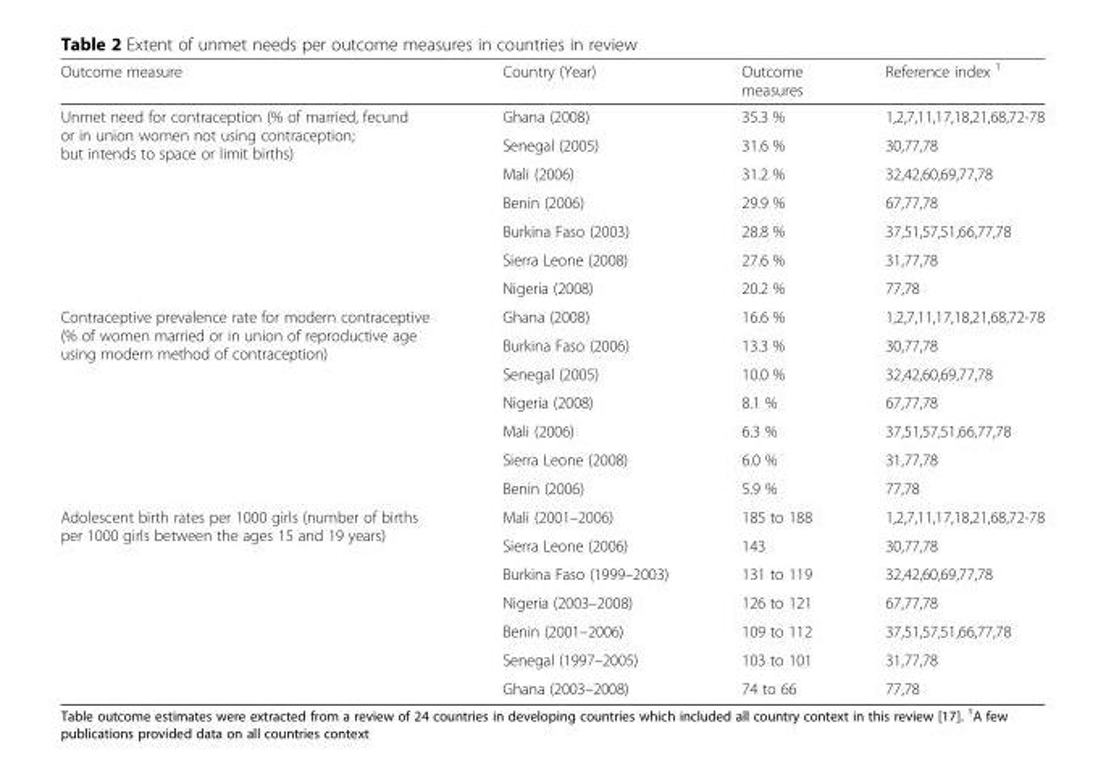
<table><thead><tr><td>Outcome measure</td><td>Country (Year)</td><td>Outcome measures</td><td>Reference index <sup>1</sup></td></tr></thead><tbody><tr><td rowspan="7">Unmet need for contraception (% of married, fecund or in union women not using contraception; but intends to space or limit births)</td><td>Ghana (2008)</td><td>35.3 %</td><td>1,2,7,11,17,18,21,68,72-78</td></tr><tr><td>Senegal (2005)</td><td>31.6 %</td><td>30,77,78</td></tr><tr><td>Mali (2006)</td><td>31.2 %</td><td>32,42,60,69,77,78</td></tr><tr><td>Benin (2006)</td><td>29.9 %</td><td>67,77,78</td></tr><tr><td>Burkina Faso (2003)</td><td>28.8 %</td><td>37,51,57,51,66,77,78</td></tr><tr><td>Sierra Leone (2008)</td><td>27.6 %</td><td>31,77,78</td></tr><tr><td>Nigeria (2008)</td><td>20.2 %</td><td>77,78</td></tr><tr><td rowspan="7">Contraceptive prevalence rate for modern contraceptive (% of women married or in union of reproductive age using modern method of contraception)</td><td>Ghana (2008)</td><td>16.6 %</td><td>1,2,7,11,17,18,21,68,72-78</td></tr><tr><td>Burkina Faso (2006)</td><td>13.3 %</td><td>30,77,78</td></tr><tr><td>Senegal (2005)</td><td>10.0 %</td><td>32,42,60,69,77,78</td></tr><tr><td>Nigeria (2008)</td><td>8.1 %</td><td>67,77,78</td></tr><tr><td>Mali (2006)</td><td>6.3 %</td><td>37,51,57,51,66,77,78</td></tr><tr><td>Sierra Leone (2008)</td><td>6.0 %</td><td>31,77,78</td></tr><tr><td>Benin (2006)</td><td>5.9 %</td><td>77,78</td></tr><tr><td rowspan="7">Adolescent birth rates per 1000 girls (number of births per 1000 girls between the ages 15 and 19 years)</td><td>Mali (2001–2006)</td><td>185 to 188</td><td>1,2,7,11,17,18,21,68,72-78</td></tr><tr><td>Sierra Leone (2006)</td><td>143</td><td>30,77,78</td></tr><tr><td>Burkina Faso (1999–2003)</td><td>131 to 119</td><td>32,42,60,69,77,78</td></tr><tr><td>Nigeria (2003–2008)</td><td>126 to 121</td><td>67,77,78</td></tr><tr><td>Benin (2001–2006)</td><td>109 to 112</td><td>37,51,57,51,66,77,78</td></tr><tr><td>Senegal (1997–2005)</td><td>103 to 101</td><td>31,77,78</td></tr><tr><td>Ghana (2003–2008)</td><td>74 to 66</td><td>77,78</td></tr></tbody></table>